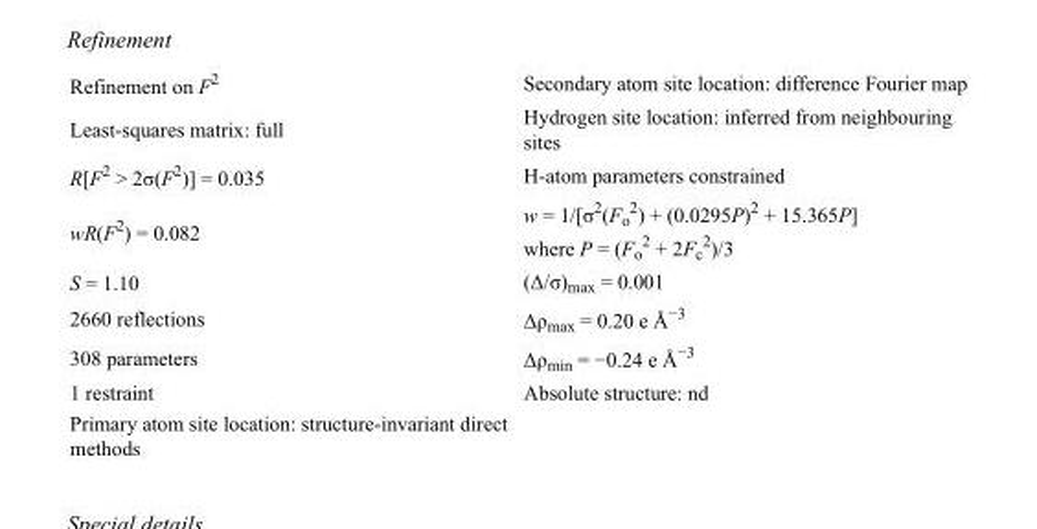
<table><tbody><tr><td>Refinement on F<sup>2</sup></td><td>Secondary atom site location: difference Fourier map</td></tr><tr><td>Least-squares matrix: full</td><td>Hydrogen site location: inferred from neighbouring sites</td></tr><tr><td>R[F<sup>2</sup> &gt; 2σ(F<sup>2</sup>)] = 0.035</td><td>H-atom parameters constrained</td></tr><tr><td>wR(F<sup>2</sup>) = 0.082</td><td>w = 1/[σ<sup>2</sup>(F<sub>o</sub> <sup>2</sup>) + (0.0295P)<sup>2</sup> + 15.365P] where P = (F<sub>o</sub> <sup>2</sup> + 2F<sub>c</sub> <sup>2</sup>)/3</td></tr><tr><td>S = 1.10</td><td>(Δ/σ)<sub>max</sub> = 0.001</td></tr><tr><td>2660 reflections</td><td>Δρ<sub>max</sub> = 0.20 e Å<sup>−3</sup></td></tr><tr><td>308 parameters</td><td>Δρ<sub>min</sub> = −0.24 e Å<sup>−3</sup></td></tr><tr><td>1 restraint</td><td>Absolute structure: nd</td></tr><tr><td>Primary atom site location: structure-invariant direct methods</td><td></td></tr></tbody></table>